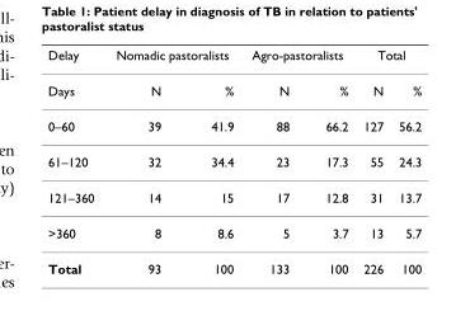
<table><thead><tr><td rowspan="2">Delay Days</td><td colspan="2">Nomadic pastoralists</td><td colspan="2">Agro-pastoralists</td><td colspan="2">Total</td></tr><tr><td>N</td><td>%</td><td>N</td><td>%</td><td>N</td><td>%</td></tr></thead><tbody><tr><td>0–60</td><td>39</td><td>41.9</td><td>88</td><td>66.2</td><td>127</td><td>56.2</td></tr><tr><td>61–120</td><td>32</td><td>34.4</td><td>23</td><td>17.3</td><td>55</td><td>24.3</td></tr><tr><td>121–360</td><td>14</td><td>15</td><td>17</td><td>12.8</td><td>31</td><td>13.7</td></tr><tr><td>&gt;360</td><td>8</td><td>8.6</td><td>5</td><td>3.7</td><td>13</td><td>5.7</td></tr><tr><td>Total</td><td>93</td><td>100</td><td>133</td><td>100</td><td>226</td><td>100</td></tr></tbody></table>